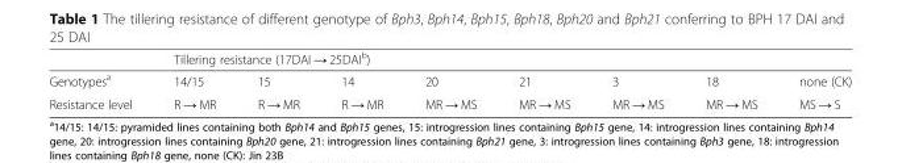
<table><thead><tr><td rowspan="2">Genotypes<sup>a</sup></td><td colspan="8">Tillering resistance (17DAI → 25DAI<sup>b</sup>)</td></tr><tr><td>14/15</td><td>15</td><td>14</td><td>20</td><td>21</td><td>3</td><td>18</td><td>none (CK)</td></tr></thead><tbody><tr><td>Resistance level</td><td>R → MR</td><td>R → MR</td><td>R → MR</td><td>MR → MS</td><td>MR → MS</td><td>MR → MS</td><td>MR → MS</td><td>MS → S</td></tr></tbody></table>